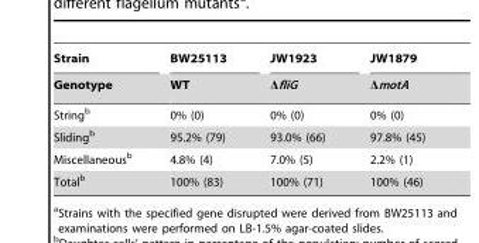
<table><thead><tr><td rowspan="2">Strain Genotype</td><td rowspan="2">BW25113 WT</td><td rowspan="2">JW1923 ΔfliG</td><td rowspan="2">JW1879 ΔmotA</td></tr><tr></tr></thead><tbody><tr><td>String<sup>b</sup></td><td>0% (0)</td><td>0% (0)</td><td>0% (0)</td></tr><tr><td>Sliding<sup>b</sup></td><td>95.2% (79)</td><td>93.0% (66)</td><td>97.8% (45)</td></tr><tr><td>Miscellaneous<sup>b</sup></td><td>4.8% (4)</td><td>7.0% (5)</td><td>2.2% (1)</td></tr><tr><td>Total<sup>b</sup></td><td>100% (83)</td><td>100% (71)</td><td>100% (46)</td></tr></tbody></table>